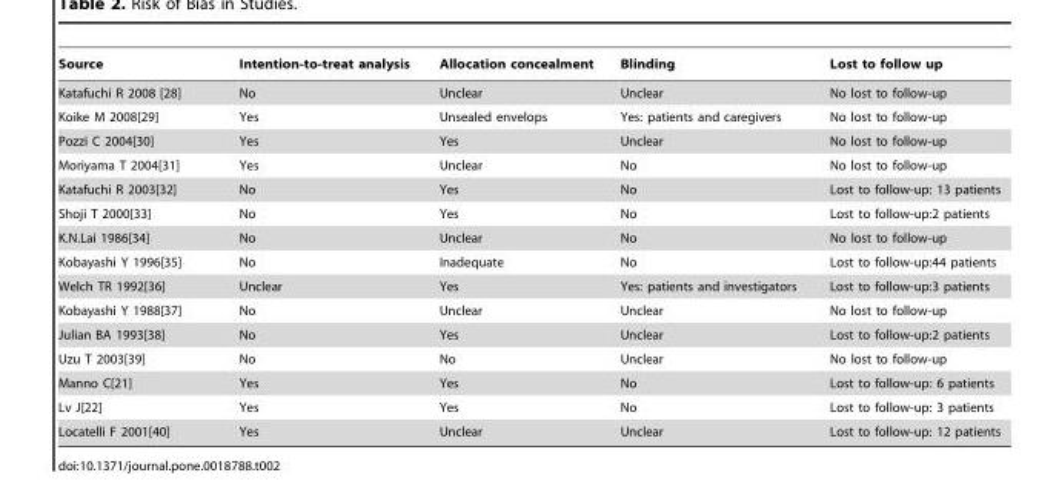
<table><thead><tr><td>Source</td><td>Intention-to-treat analysis</td><td>Allocation concealment</td><td>Blinding</td><td>Lost to follow up</td></tr></thead><tbody><tr><td>Katafuchi R 2008 [28]</td><td>No</td><td>Unclear</td><td>Unclear</td><td>No lost to follow-up</td></tr><tr><td>Koike M 2008[29]</td><td>Yes</td><td>Unsealed envelops</td><td>Yes: patients and caregivers</td><td>No lost to follow-up</td></tr><tr><td>Pozzi C 2004[30]</td><td>Yes</td><td>Yes</td><td>Unclear</td><td>No lost to follow-up</td></tr><tr><td>Moriyama T 2004[31]</td><td>Yes</td><td>Unclear</td><td>No</td><td>No lost to follow-up</td></tr><tr><td>Katafuchi R 2003[32]</td><td>No</td><td>Yes</td><td>No</td><td>Lost to follow-up: 13 patients</td></tr><tr><td>Shoji T 2000[33]</td><td>No</td><td>Yes</td><td>No</td><td>Lost to follow-up:2 patients</td></tr><tr><td>K.N.Lai 1986[34]</td><td>No</td><td>Unclear</td><td>No</td><td>No lost to follow-up</td></tr><tr><td>Kobayashi Y 1996[35]</td><td>No</td><td>Inadequate</td><td>No</td><td>Lost to follow-up:44 patients</td></tr><tr><td>Welch TR 1992[36]</td><td>Unclear</td><td>Yes</td><td>Yes: patients and investigators</td><td>Lost to follow-up:3 patients</td></tr><tr><td>Kobayashi Y 1988[37]</td><td>No</td><td>Unclear</td><td>Unclear</td><td>No lost to follow-up</td></tr><tr><td>Julian BA 1993[38]</td><td>No</td><td>Yes</td><td>Unclear</td><td>Lost to follow-up:2 patients</td></tr><tr><td>Uzu T 2003[39]</td><td>No</td><td>No</td><td>Unclear</td><td>No lost to follow-up</td></tr><tr><td>Manno C[21]</td><td>Yes</td><td>Yes</td><td>No</td><td>Lost to follow-up: 6 patients</td></tr><tr><td>Lv J[22]</td><td>Yes</td><td>Yes</td><td>No</td><td>Lost to follow-up: 3 patients</td></tr><tr><td>Locatelli F 2001[40]</td><td>Yes</td><td>Unclear</td><td>Unclear</td><td>Lost to follow-up: 12 patients</td></tr></tbody></table>